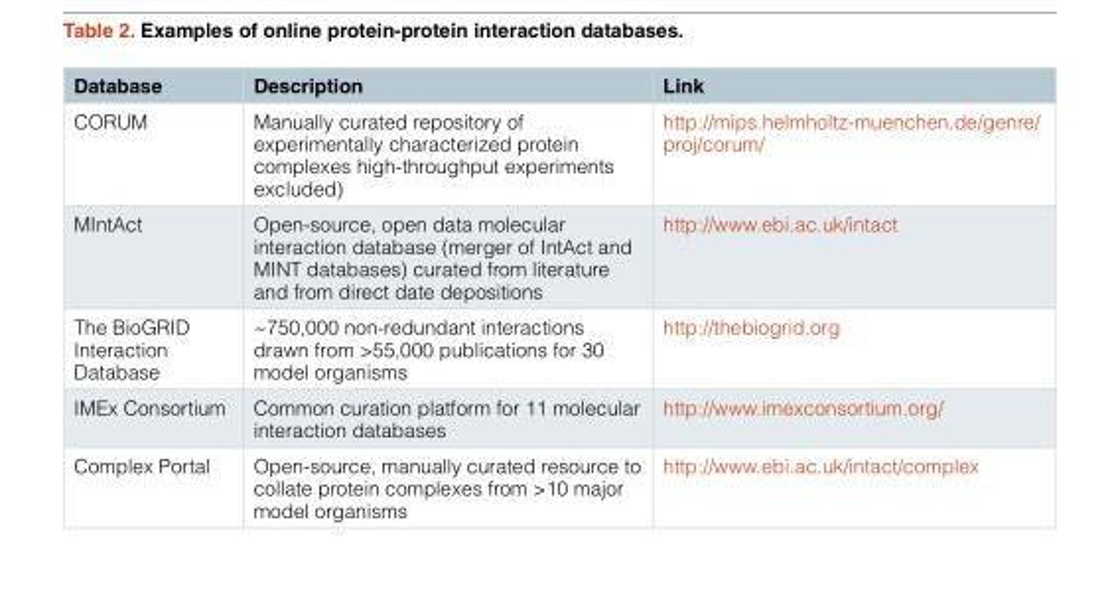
<table><thead><tr><td>Database</td><td>Description</td><td>Link</td></tr></thead><tbody><tr><td>CORUM</td><td>Manually curated repository of experimentally characterized protein complexes high-throughput experiments excluded)</td><td>http://mips.helmholtz-muenchen.de/genre/ proj/corum/</td></tr><tr><td>MIntAct</td><td>Open-source, open data molecular interaction database (merger of IntAct and MINT databases) curated from literature and from direct date depositions</td><td>http://www.ebi.ac.uk/intact</td></tr><tr><td>The BioGRID Interaction Database</td><td>~750,000 non-redundant interactions drawn from &gt;55,000 publications for 30 model organisms</td><td>http://thebiogrid.org</td></tr><tr><td>IMEx Consortium</td><td>Common curation platform for 11 molecular interaction databases</td><td>http://www.imexconsortium.org/</td></tr><tr><td>Complex Portal</td><td>Open-source, manually curated resource to collate protein complexes from &gt;10 major model organisms</td><td>http://www.ebi.ac.uk/intact/complex</td></tr></tbody></table>